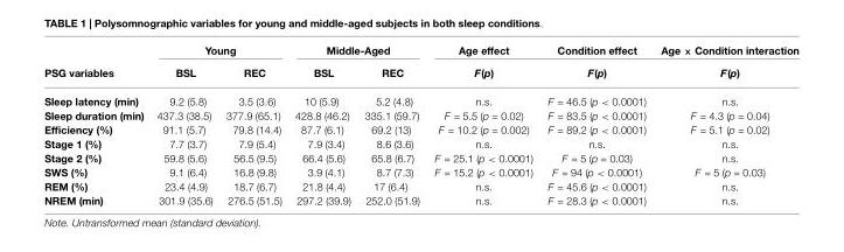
<table><thead><tr><td rowspan="2">PSG variables</td><td colspan="2">Young</td><td colspan="2">Middle-Aged</td><td rowspan="2">Age effect F(p)</td><td rowspan="2">Condition effect F(p)</td><td rowspan="2">Age × Condition interaction F(p)</td></tr><tr><td>BSL</td><td>REC</td><td>BSL</td><td>REC</td></tr></thead><tbody><tr><td>Sleep latency (min)</td><td>9.2 (5.8)</td><td>3.5 (3.6)</td><td>10 (5.9)</td><td>5.2 (4.8)</td><td>n.s.</td><td>F = 46.5 (p &lt; 0.0001)</td><td>n.s.</td></tr><tr><td>Sleep duration (min)</td><td>437.3 (38.5)</td><td>377.9 (65.1)</td><td>428.8 (46.2)</td><td>335.1 (59.7)</td><td>F = 5.5 (p = 0.02)</td><td>F = 83.5 (p &lt; 0.0001)</td><td>F = 4.3 (p = 0.04)</td></tr><tr><td>Efficiency (%)</td><td>91.1 (5.7)</td><td>79.8 (14.4)</td><td>87.7 (6.1)</td><td>69.2 (13)</td><td>F = 10.2 (p = 0.002)</td><td>F = 89.2 (p &lt; 0.0001)</td><td>F = 5.1 (p = 0.02)</td></tr><tr><td>Stage 1 (%)</td><td>7.7 (3.7)</td><td>7.9 (5.4)</td><td>7.9 (3.4)</td><td>8.6 (3.6)</td><td>n.s.</td><td>n.s.</td><td>n.s.</td></tr><tr><td>Stage 2 (%)</td><td>59.8 (5.6)</td><td>56.5 (9.5)</td><td>66.4 (5.6)</td><td>65.8 (6.7)</td><td>F = 25.1 (p &lt; 0.0001)</td><td>F = 5 (p = 0.03)</td><td>n.s.</td></tr><tr><td>SWS (%)</td><td>9.1 (6.4)</td><td>16.8 (9.8)</td><td>3.9 (4.1)</td><td>8.7 (7.3)</td><td>F = 15.2 (p &lt; 0.0001)</td><td>F = 94 (p &lt; 0.0001)</td><td>F = 5 (p = 0.03)</td></tr><tr><td>REM (%)</td><td>23.4 (4.9)</td><td>18.7 (6.7)</td><td>21.8 (4.4)</td><td>17 (6.4)</td><td>n.s.</td><td>F = 45.6 (p &lt; 0.0001)</td><td>n.s.</td></tr><tr><td>NREM (min)</td><td>301.9 (35.6)</td><td>276.5 (51.5)</td><td>297.2 (39.9)</td><td>252.0 (51.9)</td><td>n.s.</td><td>F = 28.3 (p &lt; 0.0001)</td><td>n.s.</td></tr></tbody></table>